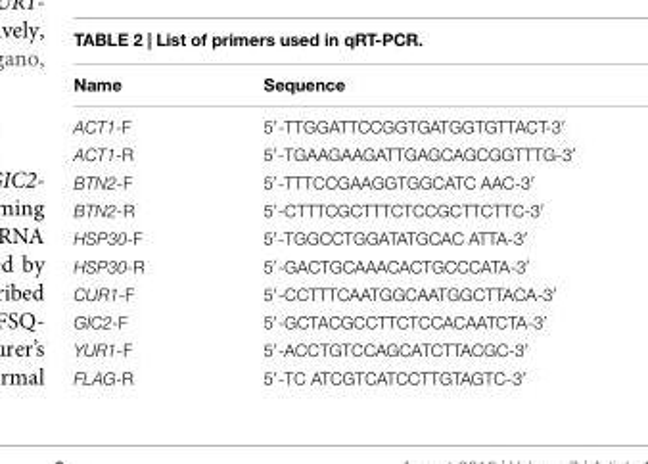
<table><thead><tr><td>Name</td><td>Sequence</td></tr></thead><tbody><tr><td>ACT1-F</td><td>5′-TTGGATTCCGGTGATGGTGTTACT-3′</td></tr><tr><td>ACT1-R</td><td>5′-TGAAGAAGATTGAGCAGCGGTTTG-3′</td></tr><tr><td>BTN2-F</td><td>5′-TTTCCGAAGGTGGCATC AAC-3′</td></tr><tr><td>BTN2-R</td><td>5′-CTTTCGCTTTCTCCGCTTCTTC-3′</td></tr><tr><td>HSP30-F</td><td>5′-TGGCCTGGATATGCAC ATTA-3′</td></tr><tr><td>HSP30-R</td><td>5′-GACTGCAAACACTGCCCATA-3′</td></tr><tr><td>CUR1-F</td><td>5′-CCTTTCAATGGCAATGGCTTACA-3′</td></tr><tr><td>GIC2-F</td><td>5′-GCTACGCCTTCTCCACAATCTA-3′</td></tr><tr><td>YUR1-F</td><td>5′-ACCTGTCCAGCATCTTACGC-3′</td></tr><tr><td>FLAG-R</td><td>5′-TC ATCGTCATCCTTGTAGTC-3′</td></tr></tbody></table>